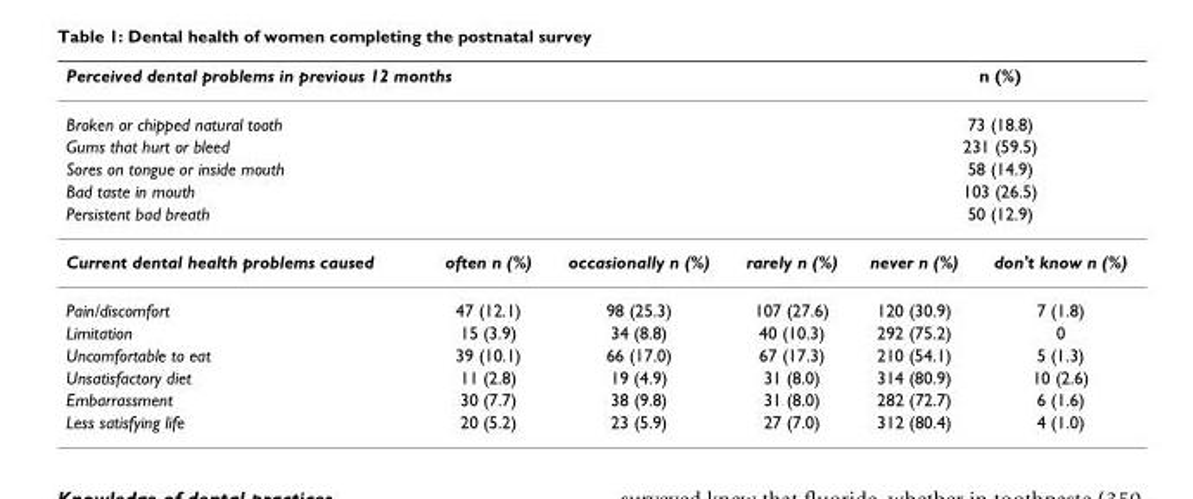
<table><thead><tr><td colspan="4">Perceived dental problems in previous 12 months</td><td colspan="2">n (%)</td></tr></thead><tbody><tr><td colspan="4">Broken or chipped natural tooth</td><td colspan="2">73 (18.8)</td></tr><tr><td colspan="4">Gums that hurt or bleed</td><td colspan="2">231 (59.5)</td></tr><tr><td colspan="4">Sores on tongue or inside mouth</td><td colspan="2">58 (14.9)</td></tr><tr><td colspan="4">Bad taste in mouth</td><td colspan="2">103 (26.5)</td></tr><tr><td colspan="4">Persistent bad breath</td><td colspan="2">50 (12.9)</td></tr><tr><td>Current dental health problems caused</td><td>often n (%)</td><td>occasionally n (%)</td><td>rarely n (%)</td><td>never n (%)</td><td>don&#x27;t know n (%)</td></tr><tr><td>Pain/discomfort</td><td>47 (12.1)</td><td>98 (25.3)</td><td>107 (27.6)</td><td>120 (30.9)</td><td>7 (1.8)</td></tr><tr><td>Limitation</td><td>15 (3.9)</td><td>34 (8.8)</td><td>40 (10.3)</td><td>292 (75.2)</td><td>0</td></tr><tr><td>Uncomfortable to eat</td><td>39 (10.1)</td><td>66 (17.0)</td><td>67 (17.3)</td><td>210 (54.1)</td><td>5 (1.3)</td></tr><tr><td>Unsatisfactory diet</td><td>11 (2.8)</td><td>19 (4.9)</td><td>31 (8.0)</td><td>314 (80.9)</td><td>10 (2.6)</td></tr><tr><td>Embarrassment</td><td>30 (7.7)</td><td>38 (9.8)</td><td>31 (8.0)</td><td>282 (72.7)</td><td>6 (1.6)</td></tr><tr><td>Less satisfying life</td><td>20 (5.2)</td><td>23 (5.9)</td><td>27 (7.0)</td><td>312 (80.4)</td><td>4 (1.0)</td></tr></tbody></table>